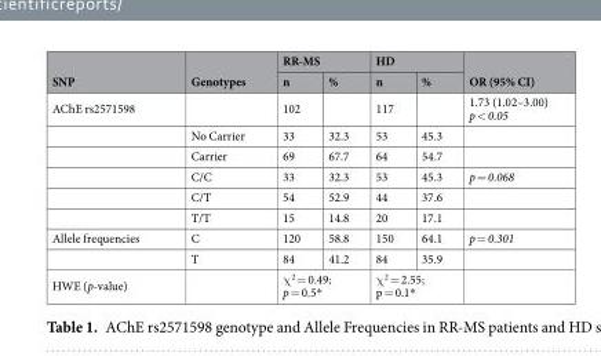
<table><thead><tr><td rowspan="2">SNP</td><td rowspan="2">Genotypes</td><td colspan="2">RR-MS</td><td colspan="2">HD</td><td rowspan="2">OR (95% CI)</td></tr><tr><td>n</td><td>%</td><td>n</td><td>%</td></tr></thead><tbody><tr><td rowspan="6">AChE rs2571598</td><td></td><td>102</td><td></td><td>117</td><td></td><td>1.73 (1.02–3.00) p &lt; 0.05</td></tr><tr><td>No Carrier</td><td>33</td><td>32.3</td><td>53</td><td>45.3</td><td></td></tr><tr><td>Carrier</td><td>69</td><td>67.7</td><td>64</td><td>54.7</td><td></td></tr><tr><td>C/C</td><td>33</td><td>32.3</td><td>53</td><td>45.3</td><td>p = 0.068</td></tr><tr><td>C/T</td><td>54</td><td>52.9</td><td>44</td><td>37.6</td><td></td></tr><tr><td>T/T</td><td>15</td><td>14.8</td><td>20</td><td>17.1</td><td></td></tr><tr><td rowspan="2">Allele frequencies</td><td>C</td><td>120</td><td>58.8</td><td>150</td><td>64.1</td><td>p = 0.301</td></tr><tr><td>T</td><td>84</td><td>41.2</td><td>84</td><td>35.9</td><td></td></tr><tr><td>HWE (p-value)</td><td></td><td colspan="2">χ<sup>2</sup> = 0.49; p = 0.5*</td><td colspan="2">χ<sup>2</sup> = 2.55; p = 0.1*</td><td></td></tr></tbody></table>